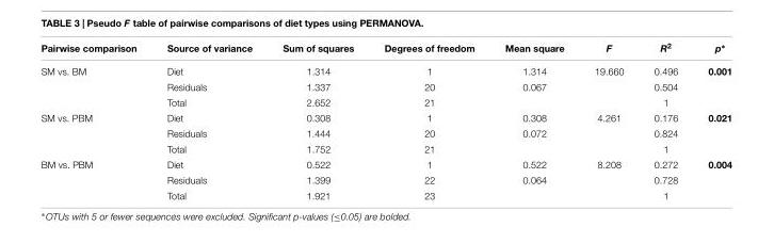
<table><thead><tr><td>Pairwise comparison</td><td>Source of variance</td><td>Sum of squares</td><td>Degrees of freedom</td><td>Mean square</td><td>F</td><td>R<sup>2</sup></td><td>p∗</td></tr></thead><tbody><tr><td rowspan="3">SM vs. BM</td><td>Diet</td><td>1.314</td><td>1</td><td>1.314</td><td>19.660</td><td>0.496</td><td>0.001</td></tr><tr><td>Residuals</td><td>1.337</td><td>20</td><td>0.067</td><td></td><td>0.504</td><td></td></tr><tr><td>Total</td><td>2.652</td><td>21</td><td></td><td></td><td>1</td><td></td></tr><tr><td rowspan="3">SM vs. PBM</td><td>Diet</td><td>0.308</td><td>1</td><td>0.308</td><td>4.261</td><td>0.176</td><td>0.021</td></tr><tr><td>Residuals</td><td>1.444</td><td>20</td><td>0.072</td><td></td><td>0.824</td><td></td></tr><tr><td>Total</td><td>1.752</td><td>21</td><td></td><td></td><td>1</td><td></td></tr><tr><td rowspan="3">BM vs. PBM</td><td>Diet</td><td>0.522</td><td>1</td><td>0.522</td><td>8.208</td><td>0.272</td><td>0.004</td></tr><tr><td>Residuals</td><td>1.399</td><td>22</td><td>0.064</td><td></td><td>0.728</td><td></td></tr><tr><td>Total</td><td>1.921</td><td>23</td><td></td><td></td><td>1</td><td></td></tr></tbody></table>